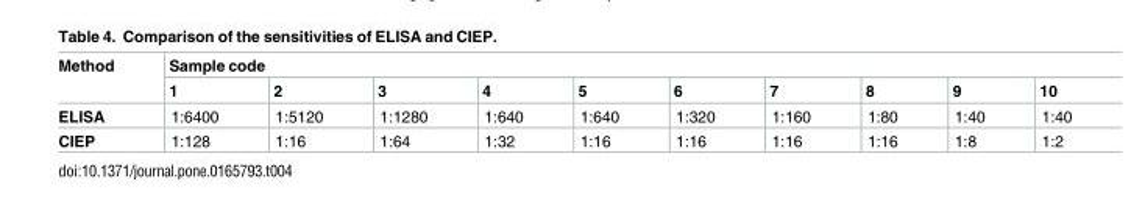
<table><thead><tr><td rowspan="2">Method</td><td colspan="10">Sample code</td></tr><tr><td>1</td><td>2</td><td>3</td><td>4</td><td>5</td><td>6</td><td>7</td><td>8</td><td>9</td><td>10</td></tr></thead><tbody><tr><td>ELISA</td><td>1:6400</td><td>1:5120</td><td>1:1280</td><td>1:640</td><td>1:640</td><td>1:320</td><td>1:160</td><td>1:80</td><td>1:40</td><td>1:40</td></tr><tr><td>CIEP</td><td>1:128</td><td>1:16</td><td>1:64</td><td>1:32</td><td>1:16</td><td>1:16</td><td>1:16</td><td>1:16</td><td>1:8</td><td>1:2</td></tr></tbody></table>